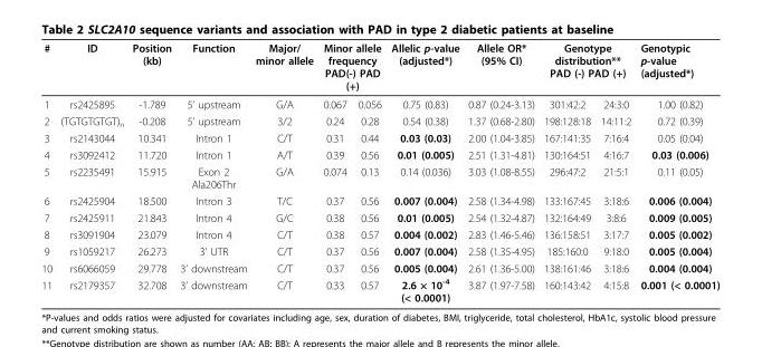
<table><thead><tr><td rowspan="2"># 1</td><td rowspan="2">ID rs2425895</td><td rowspan="2">Position (kb) -1.789</td><td rowspan="2">Function 5’ upstream</td><td rowspan="2">Major/ minor allele G/A</td><td colspan="2">Minor allele frequency PAD(-) PAD (+)</td><td rowspan="2">Allelic p-value (adjusted*) 0.75 (0.83)</td><td rowspan="2">Allele OR* (95% CI) 0.87 (0.24-3.13)</td><td colspan="2">Genotype distribution** PAD (-) PAD (+)</td><td rowspan="2">Genotypic p-value (adjusted*) 1.00 (0.82)</td></tr><tr><td>0.067</td><td>0.056</td><td>301:42:2</td><td>24:3:0</td></tr></thead><tbody><tr><td>2</td><td>(TGTGTGTGT)<sub>n</sub></td><td>-0.208</td><td>5’ upstream</td><td>3/2</td><td>0.24</td><td>0.28</td><td>0.54 (0.38)</td><td>1.37 (0.68-2.80)</td><td>198:128:18</td><td>14:11:2</td><td>0.72 (0.39)</td></tr><tr><td>3</td><td>rs2143044</td><td>10.341</td><td>Intron 1</td><td>C/T</td><td>0.31</td><td>0.44</td><td>0.03 (0.03)</td><td>2.00 (1.04-3.85)</td><td>167:141:35</td><td>7:16:4</td><td>0.05 (0.04)</td></tr><tr><td>4</td><td>rs3092412</td><td>11.720</td><td>Intron 1</td><td>A/T</td><td>0.39</td><td>0.56</td><td>0.01 (0.005)</td><td>2.51 (1.31-4.81)</td><td>130:164:51</td><td>4:16:7</td><td>0.03 (0.006)</td></tr><tr><td>5</td><td>rs2235491</td><td>15.915</td><td>Exon 2 Ala206Thr</td><td>G/A</td><td>0.074</td><td>0.13</td><td>0.14 (0.036)</td><td>3.03 (1.08-8.55)</td><td>296:47:2</td><td>21:5:1</td><td>0.11 (0.05)</td></tr><tr><td>6</td><td>rs2425904</td><td>18.500</td><td>Intron 3</td><td>T/C</td><td>0.37</td><td>0.56</td><td>0.007 (0.004)</td><td>2.58 (1.34-4.98)</td><td>133:167:45</td><td>3:18:6</td><td>0.006 (0.004)</td></tr><tr><td>7</td><td>rs2425911</td><td>21.843</td><td>Intron 4</td><td>G/C</td><td>0.38</td><td>0.56</td><td>0.01 (0.005)</td><td>2.54 (1.32-4.87)</td><td>132:164:49</td><td>3:8:6</td><td>0.009 (0.005)</td></tr><tr><td>8</td><td>rs3091904</td><td>23.079</td><td>Intron 4</td><td>C/T</td><td>0.38</td><td>0.57</td><td>0.004 (0.002)</td><td>2.83 (1.46-5.46)</td><td>136:158:51</td><td>3:17:7</td><td>0.005 (0.002)</td></tr><tr><td>9</td><td>rs1059217</td><td>26.273</td><td>3’ UTR</td><td>C/T</td><td>0.37</td><td>0.56</td><td>0.007 (0.004)</td><td>2.58 (1.35-4.95)</td><td>185:160:0</td><td>9:18:0</td><td>0.005 (0.004)</td></tr><tr><td>10</td><td>rs6066059</td><td>29.778</td><td>3’ downstream</td><td>C/T</td><td>0.37</td><td>0.56</td><td>0.005 (0.004)</td><td>2.61 (1.36-5.00)</td><td>138:161:46</td><td>3:18:6</td><td>0.004 (0.004)</td></tr><tr><td>11</td><td>rs2179357</td><td>32.708</td><td>3’ downstream</td><td>C/T</td><td>0.33</td><td>0.57</td><td>2.6 × 10<sup>-4</sup> (&lt; 0.0001)</td><td>3.87 (1.97-7.58)</td><td>160:143:42</td><td>4:15:8</td><td>0.001 (&lt; 0.0001)</td></tr></tbody></table>